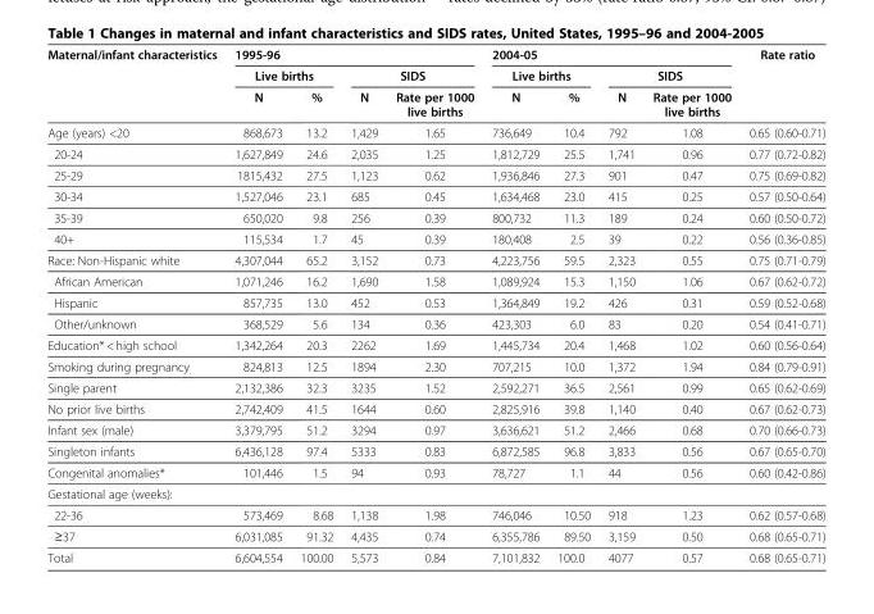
<table><thead><tr><td rowspan="3">Maternal/infant characteristics</td><td colspan="4">1995-96</td><td colspan="4">2004-05</td><td rowspan="3">Rate ratio</td></tr><tr><td colspan="2">Live births</td><td colspan="2">SIDS</td><td colspan="2">Live births</td><td colspan="2">SIDS</td></tr><tr><td>N</td><td>%</td><td>N</td><td>Rate per 1000 live births</td><td>N</td><td>%</td><td>N</td><td>Rate per 1000 live births</td></tr></thead><tbody><tr><td>Age (years) &lt;20</td><td>868,673</td><td>13.2</td><td>1,429</td><td>1.65</td><td>736,649</td><td>10.4</td><td>792</td><td>1.08</td><td>0.65 (0.60-0.71)</td></tr><tr><td>20-24</td><td>1,627,849</td><td>24.6</td><td>2,035</td><td>1.25</td><td>1,812,729</td><td>25.5</td><td>1,741</td><td>0.96</td><td>0.77 (0.72-0.82)</td></tr><tr><td>25-29</td><td>1815,432</td><td>27.5</td><td>1,123</td><td>0.62</td><td>1,936,846</td><td>27.3</td><td>901</td><td>0.47</td><td>0.75 (0.69-0.82)</td></tr><tr><td>30-34</td><td>1,527,046</td><td>23.1</td><td>685</td><td>0.45</td><td>1,634,468</td><td>23.0</td><td>415</td><td>0.25</td><td>0.57 (0.50-0.64)</td></tr><tr><td>35-39</td><td>650,020</td><td>9.8</td><td>256</td><td>0.39</td><td>800,732</td><td>11.3</td><td>189</td><td>0.24</td><td>0.60 (0.50-0.72)</td></tr><tr><td>40+</td><td>115,534</td><td>1.7</td><td>45</td><td>0.39</td><td>180,408</td><td>2.5</td><td>39</td><td>0.22</td><td>0.56 (0.36-0.85)</td></tr><tr><td>Race: Non-Hispanic white</td><td>4,307,044</td><td>65.2</td><td>3,152</td><td>0.73</td><td>4,223,756</td><td>59.5</td><td>2,323</td><td>0.55</td><td>0.75 (0.71-0.79)</td></tr><tr><td>African American</td><td>1,071,246</td><td>16.2</td><td>1,690</td><td>1.58</td><td>1,089,924</td><td>15.3</td><td>1,150</td><td>1.06</td><td>0.67 (0.62-0.72)</td></tr><tr><td>Hispanic</td><td>857,735</td><td>13.0</td><td>452</td><td>0.53</td><td>1,364,849</td><td>19.2</td><td>426</td><td>0.31</td><td>0.59 (0.52-0.68)</td></tr><tr><td>Other/unknown</td><td>368,529</td><td>5.6</td><td>134</td><td>0.36</td><td>423,303</td><td>6.0</td><td>83</td><td>0.20</td><td>0.54 (0.41-0.71)</td></tr><tr><td>Education* &lt; high school</td><td>1,342,264</td><td>20.3</td><td>2262</td><td>1.69</td><td>1,445,734</td><td>20.4</td><td>1,468</td><td>1.02</td><td>0.60 (0.56-0.64)</td></tr><tr><td>Smoking during pregnancy</td><td>824,813</td><td>12.5</td><td>1894</td><td>2.30</td><td>707,215</td><td>10.0</td><td>1,372</td><td>1.94</td><td>0.84 (0.79-0.91)</td></tr><tr><td>Single parent</td><td>2,132,386</td><td>32.3</td><td>3235</td><td>1.52</td><td>2,592,271</td><td>36.5</td><td>2,561</td><td>0.99</td><td>0.65 (0.62-0.69)</td></tr><tr><td>No prior live births</td><td>2,742,409</td><td>41.5</td><td>1644</td><td>0.60</td><td>2,825,916</td><td>39.8</td><td>1,140</td><td>0.40</td><td>0.67 (0.62-0.73)</td></tr><tr><td>Infant sex (male)</td><td>3,379,795</td><td>51.2</td><td>3294</td><td>0.97</td><td>3,636,621</td><td>51.2</td><td>2,466</td><td>0.68</td><td>0.70 (0.66-0.73)</td></tr><tr><td>Singleton infants</td><td>6,436,128</td><td>97.4</td><td>5333</td><td>0.83</td><td>6,872,585</td><td>96.8</td><td>3,833</td><td>0.56</td><td>0.67 (0.65-0.70)</td></tr><tr><td>Congenital anomalies*</td><td>101,446</td><td>1.5</td><td>94</td><td>0.93</td><td>78,727</td><td>1.1</td><td>44</td><td>0.56</td><td>0.60 (0.42-0.86)</td></tr><tr><td colspan="10">Gestational age (weeks):</td></tr><tr><td>22-36</td><td>573,469</td><td>8.68</td><td>1,138</td><td>1.98</td><td>746,046</td><td>10.50</td><td>918</td><td>1.23</td><td>0.62 (0.57-0.68)</td></tr><tr><td>≥37</td><td>6,031,085</td><td>91.32</td><td>4,435</td><td>0.74</td><td>6,355,786</td><td>89.50</td><td>3,159</td><td>0.50</td><td>0.68 (0.65-0.71)</td></tr><tr><td>Total</td><td>6,604,554</td><td>100.00</td><td>5,573</td><td>0.84</td><td>7,101,832</td><td>100.0</td><td>4077</td><td>0.57</td><td>0.68 (0.65-0.71)</td></tr></tbody></table>